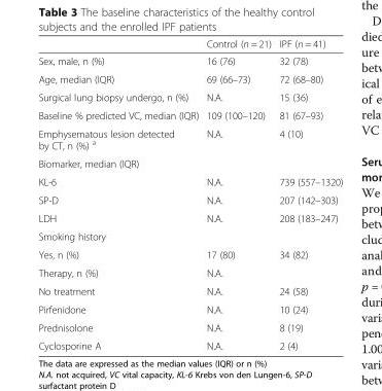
<table><thead><tr><td></td><td>Control (n = 21)</td><td>IPF (n = 41)</td></tr></thead><tbody><tr><td>Sex, male, n (%)</td><td>16 (76)</td><td>32 (78)</td></tr><tr><td>Age, median (IQR)</td><td>69 (66–73)</td><td>72 (68–80)</td></tr><tr><td>Surgical lung biopsy undergo, n (%)</td><td>N.A.</td><td>15 (36)</td></tr><tr><td>Baseline % predicted VC, median (IQR)</td><td>109 (100–120)</td><td>81 (67–93)</td></tr><tr><td>Emphysematous lesion detected by CT, n (%) <sup>a</sup></td><td>N.A.</td><td>4 (10)</td></tr><tr><td colspan="3">Biomarker, median (IQR)</td></tr><tr><td>KL-6</td><td>N.A.</td><td>739 (557–1320)</td></tr><tr><td>SP-D</td><td>N.A.</td><td>207 (142–303)</td></tr><tr><td>LDH</td><td>N.A.</td><td>208 (183–247)</td></tr><tr><td colspan="3">Smoking history</td></tr><tr><td>Yes, n (%)</td><td>17 (80)</td><td>34 (82)</td></tr><tr><td>Therapy, n (%)</td><td>N.A.</td><td></td></tr><tr><td>No treatment</td><td>N.A.</td><td>24 (58)</td></tr><tr><td>Pirfenidone</td><td>N.A.</td><td>10 (24)</td></tr><tr><td>Prednisolone</td><td>N.A.</td><td>8 (19)</td></tr><tr><td>Cyclosporine A</td><td>N.A.</td><td>2 (4)</td></tr></tbody></table>